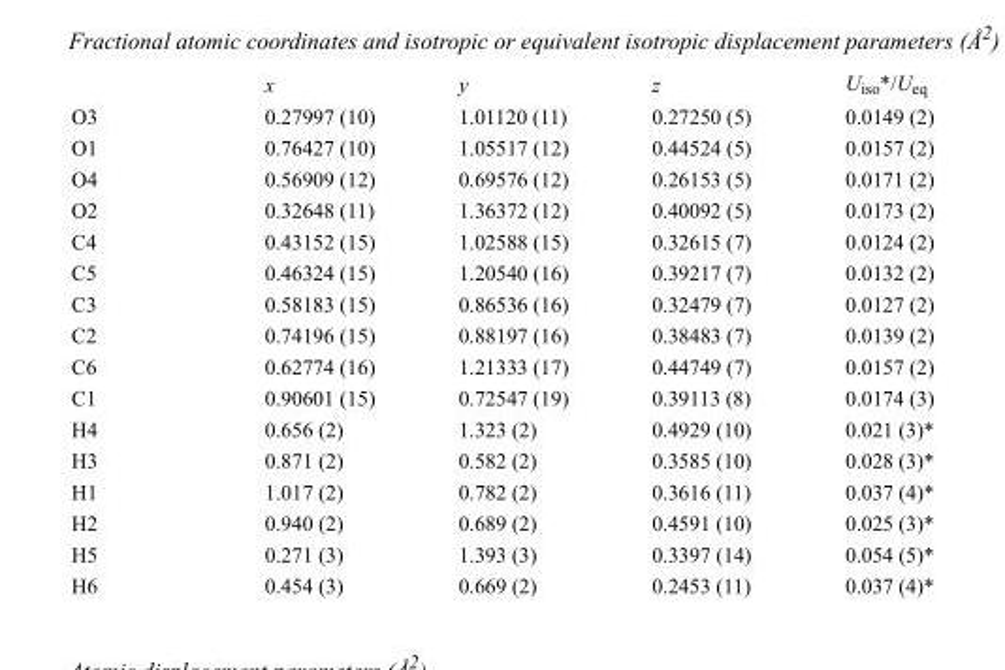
<table><thead><tr><td></td><td>x</td><td>y</td><td>z</td><td>U<sub>iso</sub>*/U<sub>eq</sub></td></tr></thead><tbody><tr><td>O3</td><td>0.27997 (10)</td><td>1.01120 (11)</td><td>0.27250 (5)</td><td>0.0149 (2)</td></tr><tr><td>O1</td><td>0.76427 (10)</td><td>1.05517 (12)</td><td>0.44524 (5)</td><td>0.0157 (2)</td></tr><tr><td>O4</td><td>0.56909 (12)</td><td>0.69576 (12)</td><td>0.26153 (5)</td><td>0.0171 (2)</td></tr><tr><td>O2</td><td>0.32648 (11)</td><td>1.36372 (12)</td><td>0.40092 (5)</td><td>0.0173 (2)</td></tr><tr><td>C4</td><td>0.43152 (15)</td><td>1.02588 (15)</td><td>0.32615 (7)</td><td>0.0124 (2)</td></tr><tr><td>C5</td><td>0.46324 (15)</td><td>1.20540 (16)</td><td>0.39217 (7)</td><td>0.0132 (2)</td></tr><tr><td>C3</td><td>0.58183 (15)</td><td>0.86536 (16)</td><td>0.32479 (7)</td><td>0.0127 (2)</td></tr><tr><td>C2</td><td>0.74196 (15)</td><td>0.88197 (16)</td><td>0.38483 (7)</td><td>0.0139 (2)</td></tr><tr><td>C6</td><td>0.62774 (16)</td><td>1.21333 (17)</td><td>0.44749 (7)</td><td>0.0157 (2)</td></tr><tr><td>C1</td><td>0.90601 (15)</td><td>0.72547 (19)</td><td>0.39113 (8)</td><td>0.0174 (3)</td></tr><tr><td>H4</td><td>0.656 (2)</td><td>1.323 (2)</td><td>0.4929 (10)</td><td>0.021 (3)*</td></tr><tr><td>H3</td><td>0.871 (2)</td><td>0.582 (2)</td><td>0.3585 (10)</td><td>0.028 (3)*</td></tr><tr><td>H1</td><td>1.017 (2)</td><td>0.782 (2)</td><td>0.3616 (11)</td><td>0.037 (4)*</td></tr><tr><td>H2</td><td>0.940 (2)</td><td>0.689 (2)</td><td>0.4591 (10)</td><td>0.025 (3)*</td></tr><tr><td>H5</td><td>0.271 (3)</td><td>1.393 (3)</td><td>0.3397 (14)</td><td>0.054 (5)*</td></tr><tr><td>H6</td><td>0.454 (3)</td><td>0.669 (2)</td><td>0.2453 (11)</td><td>0.037 (4)*</td></tr></tbody></table>